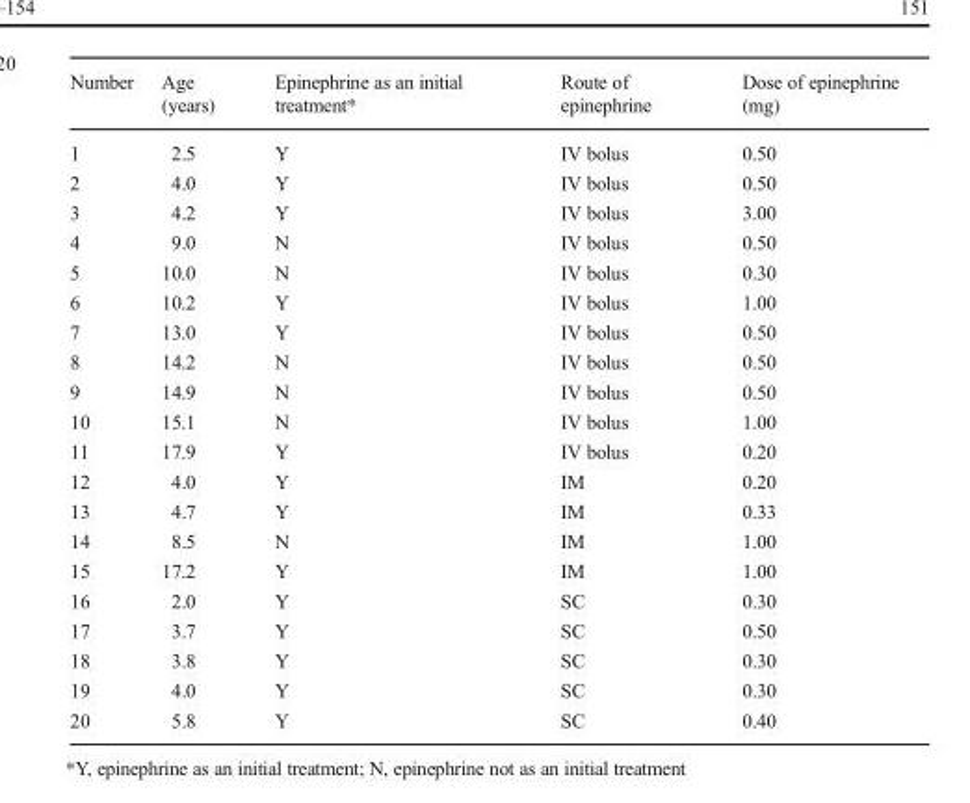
<table><thead><tr><td>Number</td><td>Age (years)</td><td>Epinephrine as an initial treatment*</td><td>Route of epinephrine</td><td>Dose of epinephrine (mg)</td></tr></thead><tbody><tr><td>1</td><td>2.5</td><td>Y</td><td>IV bolus</td><td>0.50</td></tr><tr><td>2</td><td>4.0</td><td>Y</td><td>IV bolus</td><td>0.50</td></tr><tr><td>3</td><td>4.2</td><td>Y</td><td>IV bolus</td><td>3.00</td></tr><tr><td>4</td><td>9.0</td><td>N</td><td>IV bolus</td><td>0.50</td></tr><tr><td>5</td><td>10.0</td><td>N</td><td>IV bolus</td><td>0.30</td></tr><tr><td>6</td><td>10.2</td><td>Y</td><td>IV bolus</td><td>1.00</td></tr><tr><td>7</td><td>13.0</td><td>Y</td><td>IV bolus</td><td>0.50</td></tr><tr><td>8</td><td>14.2</td><td>N</td><td>IV bolus</td><td>0.50</td></tr><tr><td>9</td><td>14.9</td><td>N</td><td>IV bolus</td><td>0.50</td></tr><tr><td>10</td><td>15.1</td><td>N</td><td>IV bolus</td><td>1.00</td></tr><tr><td>11</td><td>17.9</td><td>Y</td><td>IV bolus</td><td>0.20</td></tr><tr><td>12</td><td>4.0</td><td>Y</td><td>IM</td><td>0.20</td></tr><tr><td>13</td><td>4.7</td><td>Y</td><td>IM</td><td>0.33</td></tr><tr><td>14</td><td>8.5</td><td>N</td><td>IM</td><td>1.00</td></tr><tr><td>15</td><td>17.2</td><td>Y</td><td>IM</td><td>1.00</td></tr><tr><td>16</td><td>2.0</td><td>Y</td><td>SC</td><td>0.30</td></tr><tr><td>17</td><td>3.7</td><td>Y</td><td>SC</td><td>0.50</td></tr><tr><td>18</td><td>3.8</td><td>Y</td><td>SC</td><td>0.30</td></tr><tr><td>19</td><td>4.0</td><td>Y</td><td>SC</td><td>0.30</td></tr><tr><td>20</td><td>5.8</td><td>Y</td><td>SC</td><td>0.40</td></tr></tbody></table>